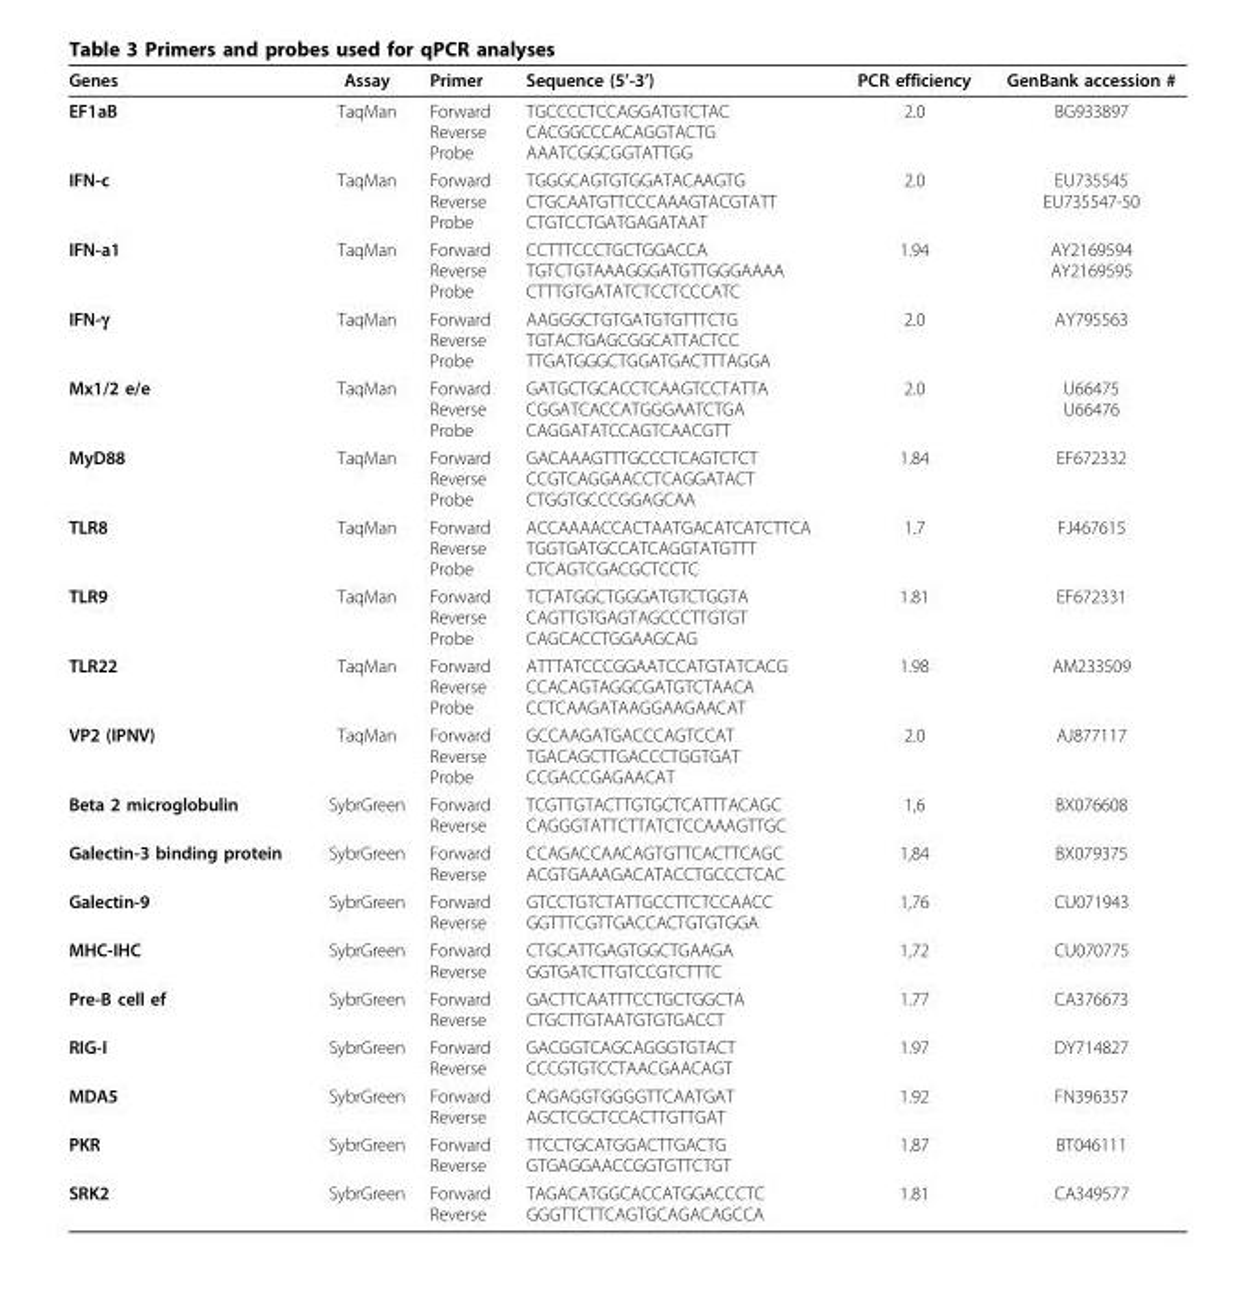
<table><thead><tr><td>Genes</td><td>Assay</td><td>Primer</td><td>Sequence (5’-3’)</td><td>PCR efficiency</td><td>GenBank accession #</td></tr></thead><tbody><tr><td>EF1aB</td><td>TaqMan</td><td>Forward Reverse Probe</td><td>TGCCCCTCCAGGATGTCTAC CACGGCCCACAGGTACTG AAATCGGCGGTATTGG</td><td>2.0</td><td>BG933897</td></tr><tr><td>IFN-c</td><td>TaqMan</td><td>Forward Reverse Probe</td><td>TGGGCAGTGTGGATACAAGTG CTGCAATGTTCCCAAAGTACGTATT CTGTCCTGATGAGATAAT</td><td>2.0</td><td>EU735545 EU735547-50</td></tr><tr><td>IFN-a1</td><td>TaqMan</td><td>Forward Reverse Probe</td><td>CCTTTCCCTGCTGGACCA TGTCTGTAAAGGGATGTTGGGAAAA CTTTGTGATATCTCCTCCCATC</td><td>1.94</td><td>AY2169594 AY2169595</td></tr><tr><td>IFN-γ</td><td>TaqMan</td><td>Forward Reverse Probe</td><td>AAGGGCTGTGATGTGTTTCTG TGTACTGAGCGGCATTACTCC TTGATGGGCTGGATGACTTTAGGA</td><td>2.0</td><td>AY795563</td></tr><tr><td>Mx1/2 e/e</td><td>TaqMan</td><td>Forward Reverse Probe</td><td>GATGCTGCACCTCAAGTCCTATTA CGGATCACCATGGGAATCTGA CAGGATATCCAGTCAACGTT</td><td>2.0</td><td>U66475 U66476</td></tr><tr><td>MyD88</td><td>TaqMan</td><td>Forward Reverse Probe</td><td>GACAAAGTTTGCCCTCAGTCTCT CCGTCAGGAACCTCAGGATACT CTGGTGCCCGGAGCAA</td><td>1.84</td><td>EF672332</td></tr><tr><td>TLR8</td><td>TaqMan</td><td>Forward Reverse Probe</td><td>ACCAAAACCACTAATGACATCATCTTCA TGGTGATGCCATCAGGTATGTTT CTCAGTCGACGCTCCTC</td><td>1.7</td><td>FJ467615</td></tr><tr><td>TLR9</td><td>TaqMan</td><td>Forward Reverse Probe</td><td>TCTATGGCTGGGATGTCTGGTA CAGTTGTGAGTAGCCCTTGTGT CAGCACCTGGAAGCAG</td><td>1.81</td><td>EF672331</td></tr><tr><td>TLR22</td><td>TaqMan</td><td>Forward Reverse Probe</td><td>ATTTATCCCGGAATCCATGTATCACG CCACAGTAGGCGATGTCTAACA CCTCAAGATAAGGAAGAACAT</td><td>1.98</td><td>AM233509</td></tr><tr><td>VP2 (IPNV)</td><td>TaqMan</td><td>Forward Reverse Probe</td><td>GCCAAGATGACCCAGTCCAT TGACAGCTTGACCCTGGTGAT CCGACCGAGAACAT</td><td>2.0</td><td>AJ877117</td></tr><tr><td>Beta 2 microglobulin</td><td>SybrGreen</td><td>Forward Reverse</td><td>TCGTTGTACTTGTGCTCATTTACAGC CAGGGTATTCTTATCTCCAAAGTTGC</td><td>1,6</td><td>BX076608</td></tr><tr><td>Galectin-3 binding protein</td><td>SybrGreen</td><td>Forward Reverse</td><td>CCAGACCAACAGTGTTCACTTCAGC ACGTGAAAGACATACCTGCCCTCAC</td><td>1,84</td><td>BX079375</td></tr><tr><td>Galectin-9</td><td>SybrGreen</td><td>Forward Reverse</td><td>GTCCTGTCTATTGCCTTCTCCAACC GGTTTCGTTGACCACTGTGTGGA</td><td>1,76</td><td>CU071943</td></tr><tr><td>MHC-IHC</td><td>SybrGreen</td><td>Forward Reverse</td><td>CTGCATTGAGTGGCTGAAGA GGTGATCTTGTCCGTCTTTC</td><td>1,72</td><td>CU070775</td></tr><tr><td>Pre-B cell ef</td><td>SybrGreen</td><td>Forward Reverse</td><td>GACTTCAATTTCCTGCTGGCTA CTGCTTGTAATGTGTGACCT</td><td>1.77</td><td>CA376673</td></tr><tr><td>RIG-I</td><td>SybrGreen</td><td>Forward Reverse</td><td>GACGGTCAGCAGGGTGTACT CCCGTGTCCTAACGAACAGT</td><td>1.97</td><td>DY714827</td></tr><tr><td>MDA5</td><td>SybrGreen</td><td>Forward Reverse</td><td>CAGAGGTGGGGTTCAATGAT AGCTCGCTCCACTTGTTGAT</td><td>1.92</td><td>FN396357</td></tr><tr><td>PKR</td><td>SybrGreen</td><td>Forward Reverse</td><td>TTCCTGCATGGACTTGACTG GTGAGGAACCGGTGTTCTGT</td><td>1.87</td><td>BT046111</td></tr><tr><td>SRK2</td><td>SybrGreen</td><td>Forward Reverse</td><td>TAGACATGGCACCATGGACCCTC GGGTTCTTCAGTGCAGACAGCCA</td><td>1.81</td><td>CA349577</td></tr></tbody></table>